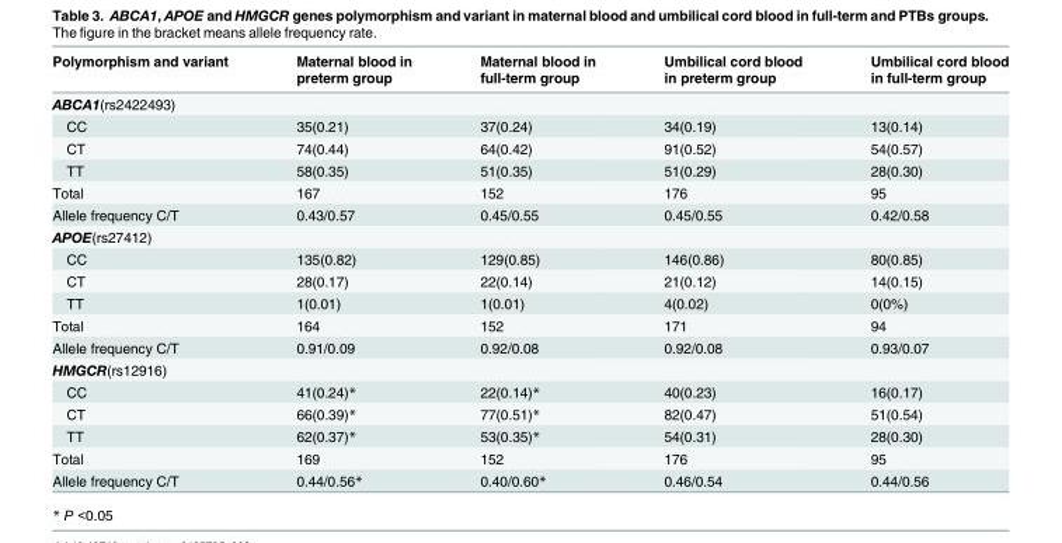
<table><thead><tr><td>Polymorphism and variant</td><td>Maternal blood in preterm group</td><td>Maternal blood in full-term group</td><td>Umbilical cord blood in preterm group</td><td>Umbilical cord blood in full-term group</td></tr></thead><tbody><tr><td colspan="5">ABCA1(rs2422493)</td></tr><tr><td>CC</td><td>35(0.21)</td><td>37(0.24)</td><td>34(0.19)</td><td>13(0.14)</td></tr><tr><td>CT</td><td>74(0.44)</td><td>64(0.42)</td><td>91(0.52)</td><td>54(0.57)</td></tr><tr><td>TT</td><td>58(0.35)</td><td>51(0.35)</td><td>51(0.29)</td><td>28(0.30)</td></tr><tr><td>Total</td><td>167</td><td>152</td><td>176</td><td>95</td></tr><tr><td>Allele frequency C/T</td><td>0.43/0.57</td><td>0.45/0.55</td><td>0.45/0.55</td><td>0.42/0.58</td></tr><tr><td colspan="5">APOE(rs27412)</td></tr><tr><td>CC</td><td>135(0.82)</td><td>129(0.85)</td><td>146(0.86)</td><td>80(0.85)</td></tr><tr><td>CT</td><td>28(0.17)</td><td>22(0.14)</td><td>21(0.12)</td><td>14(0.15)</td></tr><tr><td>TT</td><td>1(0.01)</td><td>1(0.01)</td><td>4(0.02)</td><td>0(0%)</td></tr><tr><td>Total</td><td>164</td><td>152</td><td>171</td><td>94</td></tr><tr><td>Allele frequency C/T</td><td>0.91/0.09</td><td>0.92/0.08</td><td>0.92/0.08</td><td>0.93/0.07</td></tr><tr><td colspan="5">HMGCR(rs12916)</td></tr><tr><td>CC</td><td>41(0.24)*</td><td>22(0.14)*</td><td>40(0.23)</td><td>16(0.17)</td></tr><tr><td>CT</td><td>66(0.39)*</td><td>77(0.51)*</td><td>82(0.47)</td><td>51(0.54)</td></tr><tr><td>TT</td><td>62(0.37)*</td><td>53(0.35)*</td><td>54(0.31)</td><td>28(0.30)</td></tr><tr><td>Total</td><td>169</td><td>152</td><td>176</td><td>95</td></tr><tr><td>Allele frequency C/T</td><td>0.44/0.56*</td><td>0.40/0.60*</td><td>0.46/0.54</td><td>0.44/0.56</td></tr></tbody></table>